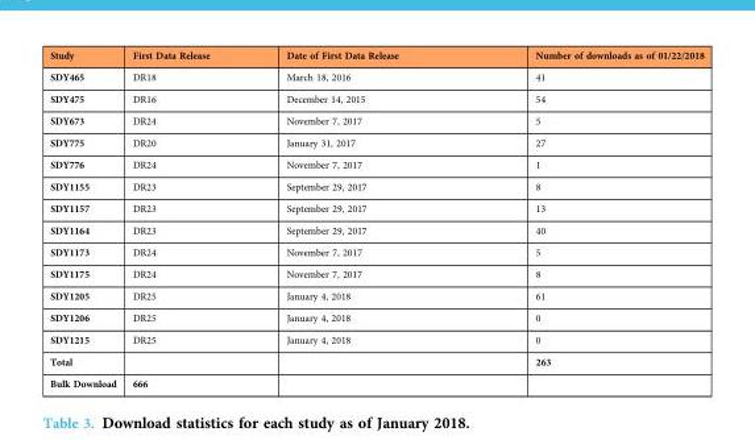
<table><thead><tr><td>Study</td><td>First Data Release</td><td>Date of First Data Release</td><td>Number of downloads as of 01/22/2018</td></tr></thead><tbody><tr><td>SDY465</td><td>DR18</td><td>March 18, 2016</td><td>41</td></tr><tr><td>SDY475</td><td>DR16</td><td>December 14, 2015</td><td>54</td></tr><tr><td>SDY673</td><td>DR24</td><td>November 7, 2017</td><td>5</td></tr><tr><td>SDY775</td><td>DR20</td><td>January 31, 2017</td><td>27</td></tr><tr><td>SDY776</td><td>DR24</td><td>November 7, 2017</td><td>1</td></tr><tr><td>SDY1155</td><td>DR23</td><td>September 29, 2017</td><td>8</td></tr><tr><td>SDY1157</td><td>DR23</td><td>September 29, 2017</td><td>13</td></tr><tr><td>SDY1164</td><td>DR23</td><td>September 29, 2017</td><td>40</td></tr><tr><td>SDY1173</td><td>DR24</td><td>November 7, 2017</td><td>5</td></tr><tr><td>SDY1175</td><td>DR24</td><td>November 7, 2017</td><td>8</td></tr><tr><td>SDY1205</td><td>DR25</td><td>January 4, 2018</td><td>61</td></tr><tr><td>SDY1206</td><td>DR25</td><td>January 4, 2018</td><td>0</td></tr><tr><td>SDY1215</td><td>DR25</td><td>January 4, 2018</td><td>0</td></tr><tr><td>Total</td><td></td><td></td><td>263</td></tr><tr><td>Bulk Download</td><td>666</td><td></td><td></td></tr></tbody></table>